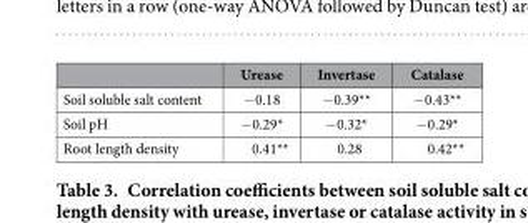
<table><thead><tr><td></td><td>Urease</td><td>Invertase</td><td>Catalase</td></tr></thead><tbody><tr><td>Soil soluble salt content</td><td>−0.18</td><td>−0.39**</td><td>−0.43**</td></tr><tr><td>Soil pH</td><td>−0.29*</td><td>−0.32*</td><td>−0.29*</td></tr><tr><td>Root length density</td><td>0.41**</td><td>0.28</td><td>0.42**</td></tr></tbody></table>